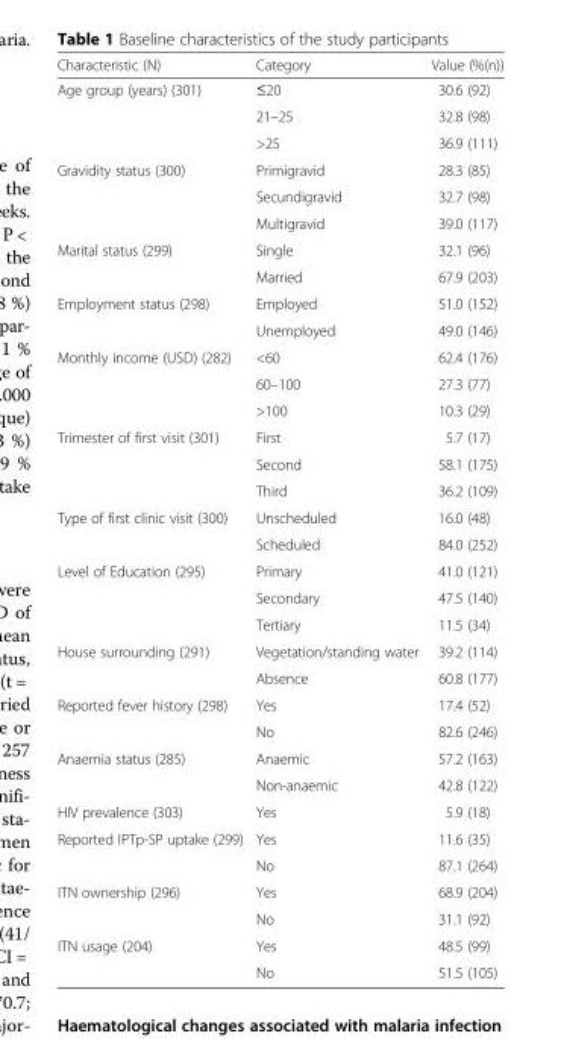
<table><thead><tr><td>Characteristic (N)</td><td>Category</td><td>Value (%(n))</td></tr></thead><tbody><tr><td rowspan="3">Age group (years) (301)</td><td>≤20</td><td>30.6 (92)</td></tr><tr><td>21–25</td><td>32.8 (98)</td></tr><tr><td>&gt;25</td><td>36.9 (111)</td></tr><tr><td rowspan="3">Gravidity status (300)</td><td>Primigravid</td><td>28.3 (85)</td></tr><tr><td>Secundigravid</td><td>32.7 (98)</td></tr><tr><td>Multigravid</td><td>39.0 (117)</td></tr><tr><td rowspan="2">Marital status (299)</td><td>Single</td><td>32.1 (96)</td></tr><tr><td>Married</td><td>67.9 (203)</td></tr><tr><td rowspan="2">Employment status (298)</td><td>Employed</td><td>51.0 (152)</td></tr><tr><td>Unemployed</td><td>49.0 (146)</td></tr><tr><td rowspan="3">Monthly income (USD) (282)</td><td>&lt;60</td><td>62.4 (176)</td></tr><tr><td>60–100</td><td>27.3 (77)</td></tr><tr><td>&gt;100</td><td>10.3 (29)</td></tr><tr><td rowspan="3">Trimester of first visit (301)</td><td>First</td><td>5.7 (17)</td></tr><tr><td>Second</td><td>58.1 (175)</td></tr><tr><td>Third</td><td>36.2 (109)</td></tr><tr><td rowspan="2">Type of first clinic visit (300)</td><td>Unscheduled</td><td>16.0 (48)</td></tr><tr><td>Scheduled</td><td>84.0 (252)</td></tr><tr><td rowspan="3">Level of Education (295)</td><td>Primary</td><td>41.0 (121)</td></tr><tr><td>Secondary</td><td>47.5 (140)</td></tr><tr><td>Tertiary</td><td>11.5 (34)</td></tr><tr><td rowspan="2">House surrounding (291)</td><td>Vegetation/standing water</td><td>39.2 (114)</td></tr><tr><td>Absence</td><td>60.8 (177)</td></tr><tr><td rowspan="2">Reported fever history (298)</td><td>Yes</td><td>17.4 (52)</td></tr><tr><td>No</td><td>82.6 (246)</td></tr><tr><td rowspan="2">Anaemia status (285)</td><td>Anaemic</td><td>57.2 (163)</td></tr><tr><td>Non-anaemic</td><td>42.8 (122)</td></tr><tr><td>HIV prevalence (303)</td><td>Yes</td><td>5.9 (18)</td></tr><tr><td rowspan="2">Reported IPTp-SP uptake (299)</td><td>Yes</td><td>11.6 (35)</td></tr><tr><td>No</td><td>87.1 (264)</td></tr><tr><td rowspan="2">ITN ownership (296)</td><td>Yes</td><td>68.9 (204)</td></tr><tr><td>No</td><td>31.1 (92)</td></tr><tr><td rowspan="2">ITN usage (204)</td><td>Yes</td><td>48.5 (99)</td></tr><tr><td>No</td><td>51.5 (105)</td></tr></tbody></table>